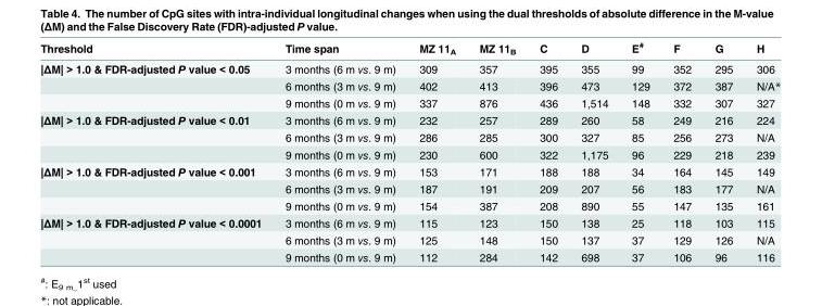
<table><thead><tr><td>Threshold</td><td>Time span</td><td>MZ 11<sub>A</sub></td><td>MZ 11<sub>B</sub></td><td>C</td><td>D</td><td>E<sup>#</sup></td><td>F</td><td>G</td><td>H</td></tr></thead><tbody><tr><td rowspan="3">|ΔM| &gt; 1.0 &amp; FDR-adjusted P value &lt; 0.05</td><td>3 months (6 m vs. 9 m)</td><td>309</td><td>357</td><td>395</td><td>355</td><td>99</td><td>352</td><td>295</td><td>306</td></tr><tr><td>6 months (3 m vs. 9 m)</td><td>402</td><td>413</td><td>396</td><td>473</td><td>129</td><td>372</td><td>387</td><td>N/A*</td></tr><tr><td>9 months (0 m vs. 9 m)</td><td>337</td><td>876</td><td>436</td><td>1,514</td><td>148</td><td>332</td><td>307</td><td>327</td></tr><tr><td rowspan="3">|ΔM| &gt; 1.0 &amp; FDR-adjusted P value &lt; 0.01</td><td>3 months (6 m vs. 9 m)</td><td>232</td><td>257</td><td>289</td><td>260</td><td>58</td><td>249</td><td>216</td><td>224</td></tr><tr><td>6 months (3 m vs. 9 m)</td><td>286</td><td>285</td><td>300</td><td>327</td><td>85</td><td>256</td><td>273</td><td>N/A</td></tr><tr><td>9 months (0 m vs. 9 m)</td><td>230</td><td>600</td><td>322</td><td>1,175</td><td>96</td><td>229</td><td>218</td><td>239</td></tr><tr><td rowspan="3">|ΔM| &gt; 1.0 &amp; FDR-adjusted P value &lt; 0.001</td><td>3 months (6 m vs. 9 m)</td><td>153</td><td>171</td><td>188</td><td>188</td><td>34</td><td>164</td><td>145</td><td>149</td></tr><tr><td>6 months (3 m vs. 9 m)</td><td>187</td><td>191</td><td>209</td><td>207</td><td>56</td><td>183</td><td>177</td><td>N/A</td></tr><tr><td>9 months (0 m vs. 9 m)</td><td>154</td><td>387</td><td>208</td><td>890</td><td>55</td><td>147</td><td>135</td><td>161</td></tr><tr><td rowspan="3">|ΔM| &gt; 1.0 &amp; FDR-adjusted P value &lt; 0.0001</td><td>3 months (6 m vs. 9 m)</td><td>115</td><td>123</td><td>150</td><td>138</td><td>25</td><td>118</td><td>103</td><td>115</td></tr><tr><td>6 months (3 m vs. 9 m)</td><td>125</td><td>148</td><td>150</td><td>137</td><td>37</td><td>129</td><td>126</td><td>N/A</td></tr><tr><td>9 months (0 m vs. 9 m)</td><td>112</td><td>284</td><td>142</td><td>698</td><td>37</td><td>106</td><td>96</td><td>116</td></tr></tbody></table>